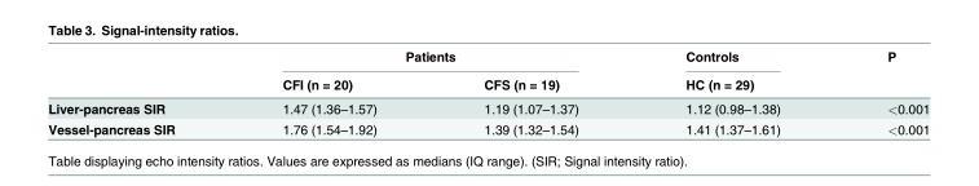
<table><thead><tr><td rowspan="2"></td><td colspan="2">Patients</td><td rowspan="2">Controls HC (n = 29)</td><td rowspan="2">P</td></tr><tr><td>CFI (n = 20)</td><td>CFS (n = 19)</td></tr></thead><tbody><tr><td>Liver-pancreas SIR</td><td>1.47 (1.36–1.57)</td><td>1.19 (1.07–1.37)</td><td>1.12 (0.98–1.38)</td><td>&lt;0.001</td></tr><tr><td>Vessel-pancreas SIR</td><td>1.76 (1.54–1.92)</td><td>1.39 (1.32–1.54)</td><td>1.41 (1.37–1.61)</td><td>&lt;0.001</td></tr></tbody></table>